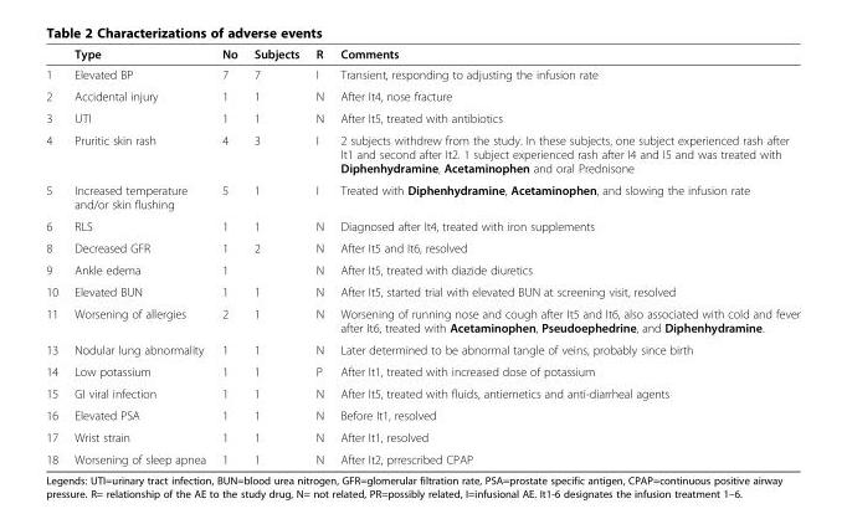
<table><thead><tr><td></td><td>Type</td><td>No</td><td>Subjects</td><td>R</td><td>Comments</td></tr></thead><tbody><tr><td>1</td><td>Elevated BP</td><td>7</td><td>7</td><td>I</td><td>Transient, responding to adjusting the infusion rate</td></tr><tr><td>2</td><td>Accidental injury</td><td>1</td><td>1</td><td>N</td><td>After It4, nose fracture</td></tr><tr><td>3</td><td>UTI</td><td>1</td><td>1</td><td>N</td><td>After It5, treated with antibiotics</td></tr><tr><td>4</td><td>Pruritic skin rash</td><td>4</td><td>3</td><td>I</td><td>2 subjects withdrew from the study. In these subjects, one subject experienced rash after It1 and second after It2. 1 subject experienced rash after I4 and I5 and was treated with Diphenhydramine, Acetaminophen and oral Prednisone</td></tr><tr><td>5</td><td>Increased temperature and/or skin flushing</td><td>5</td><td>1</td><td>I</td><td>Treated with Diphenhydramine, Acetaminophen, and slowing the infusion rate</td></tr><tr><td>6</td><td>RLS</td><td>1</td><td>1</td><td>N</td><td>Diagnosed after It4, treated with iron supplements</td></tr><tr><td>8</td><td>Decreased GFR</td><td>1</td><td>2</td><td>N</td><td>After It5 and It6, resolved</td></tr><tr><td>9</td><td>Ankle edema</td><td>1</td><td></td><td>N</td><td>After It5, treated with diazide diuretics</td></tr><tr><td>10</td><td>Elevated BUN</td><td>1</td><td>1</td><td>N</td><td>After It5, started trial with elevated BUN at screening visit, resolved</td></tr><tr><td>11</td><td>Worsening of allergies</td><td>2</td><td>1</td><td>N</td><td>Worsening of running nose and cough after It5 and It6, also associated with cold and fever after It6, treated with Acetaminophen, Pseudoephedrine, and Diphenhydramine.</td></tr><tr><td>13</td><td>Nodular lung abnormality</td><td>1</td><td>1</td><td>N</td><td>Later determined to be abnormal tangle of veins, probably since birth</td></tr><tr><td>14</td><td>Low potassium</td><td>1</td><td>1</td><td>P</td><td>After It1, treated with increased dose of potassium</td></tr><tr><td>15</td><td>GI viral infection</td><td>1</td><td>1</td><td>N</td><td>After It5, treated with fluids, antiemetics and anti-diarrheal agents</td></tr><tr><td>16</td><td>Elevated PSA</td><td>1</td><td>1</td><td>N</td><td>Before It1, resolved</td></tr><tr><td>17</td><td>Wrist strain</td><td>1</td><td>1</td><td>N</td><td>After It1, resolved</td></tr><tr><td>18</td><td>Worsening of sleep apnea</td><td>1</td><td>1</td><td>N</td><td>After It2, prrescribed CPAP</td></tr></tbody></table>